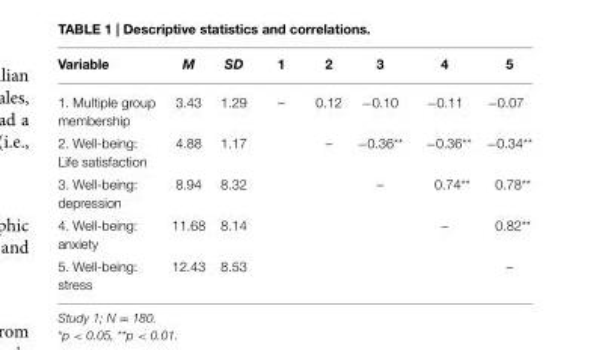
<table><thead><tr><td>Variable</td><td>M</td><td>SD</td><td>1</td><td>2</td><td>3</td><td>4</td><td>5</td></tr></thead><tbody><tr><td>1. Multiple group membership</td><td>3.43</td><td>1.29</td><td>–</td><td>0.12</td><td>−0.10</td><td>−0.11</td><td>−0.07</td></tr><tr><td>2. Well-being: Life satisfaction</td><td>4.88</td><td>1.17</td><td></td><td>–</td><td>−0.36**</td><td>−0.36**</td><td>−0.34**</td></tr><tr><td>3. Well-being: depression</td><td>8.94</td><td>8.32</td><td></td><td></td><td>–</td><td>0.74**</td><td>0.78**</td></tr><tr><td>4. Well-being: anxiety</td><td>11.68</td><td>8.14</td><td></td><td></td><td></td><td>–</td><td>0.82**</td></tr><tr><td>5. Well-being: stress</td><td>12.43</td><td>8.53</td><td></td><td></td><td></td><td></td><td>–</td></tr></tbody></table>